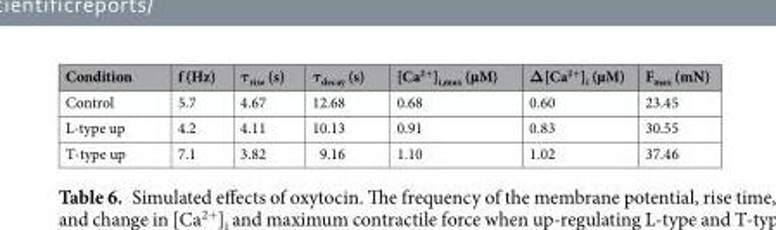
<table><thead><tr><td>Condition</td><td>f (Hz)</td><td>τ<sub>rise</sub> (s)</td><td>τ<sub>decay</sub> (s)</td><td>[Ca<sup>2+</sup>]<sub>i,max</sub> (µM)</td><td>Δ[Ca<sup>2+</sup>]<sub>i</sub> (µM)</td><td>F<sub>max</sub> (mN)</td></tr></thead><tbody><tr><td>Control</td><td>5.7</td><td>4.67</td><td>12.68</td><td>0.68</td><td>0.60</td><td>23.45</td></tr><tr><td>L-type up</td><td>4.2</td><td>4.11</td><td>10.13</td><td>0.91</td><td>0.83</td><td>30.55</td></tr><tr><td>T-type up</td><td>7.1</td><td>3.82</td><td>9.16</td><td>1.10</td><td>1.02</td><td>37.46</td></tr></tbody></table>